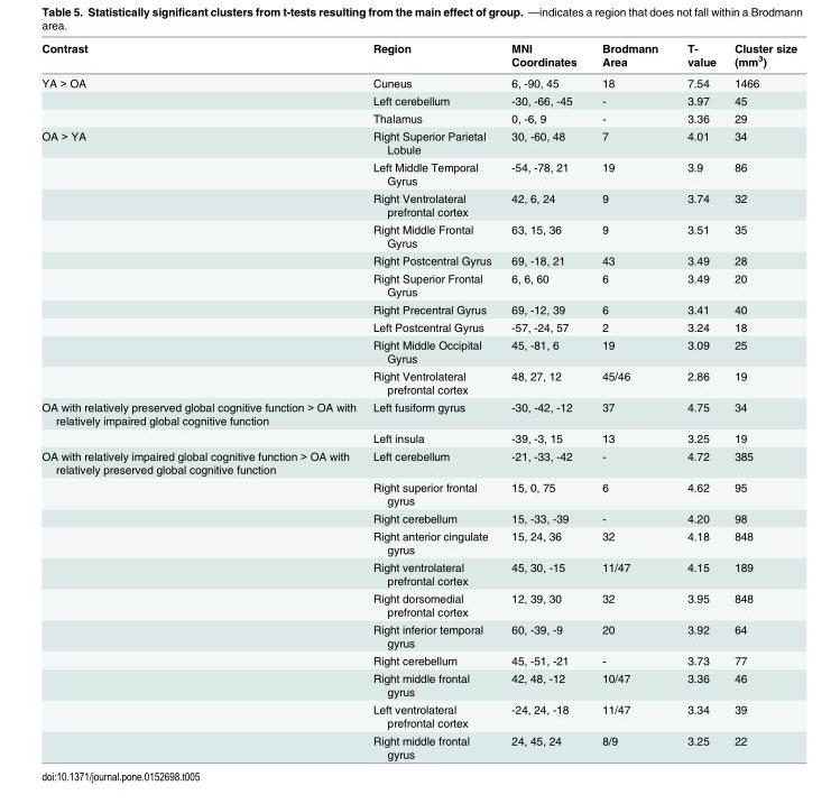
<table><thead><tr><td>Contrast</td><td>Region</td><td>MNI Coordinates</td><td>Brodmann Area</td><td>T- value</td><td>Cluster size (mm<sup>3</sup>)</td></tr></thead><tbody><tr><td rowspan="3">YA &gt; OA</td><td>Cuneus</td><td>6, -90, 45</td><td>18</td><td>7.54</td><td>1466</td></tr><tr><td>Left cerebellum</td><td>-30, -66, -45</td><td>-</td><td>3.97</td><td>45</td></tr><tr><td>Thalamus</td><td>0, -6, 9</td><td>-</td><td>3.36</td><td>29</td></tr><tr><td rowspan="10">OA &gt; YA</td><td>Right Superior Parietal Lobule</td><td>30, -60, 48</td><td>7</td><td>4.01</td><td>34</td></tr><tr><td>Left Middle Temporal Gyrus</td><td>-54, -78, 21</td><td>19</td><td>3.9</td><td>86</td></tr><tr><td>Right Ventrolateral prefrontal cortex</td><td>42, 6, 24</td><td>9</td><td>3.74</td><td>32</td></tr><tr><td>Right Middle Frontal Gyrus</td><td>63, 15, 36</td><td>9</td><td>3.51</td><td>35</td></tr><tr><td>Right Postcentral Gyrus</td><td>69, -18, 21</td><td>43</td><td>3.49</td><td>28</td></tr><tr><td>Right Superior Frontal Gyrus</td><td>6, 6, 60</td><td>6</td><td>3.49</td><td>20</td></tr><tr><td>Right Precentral Gyrus</td><td>69, -12, 39</td><td>6</td><td>3.41</td><td>40</td></tr><tr><td>Left Postcentral Gyrus</td><td>-57, -24, 57</td><td>2</td><td>3.24</td><td>18</td></tr><tr><td>Right Middle Occipital Gyrus</td><td>45, -81, 6</td><td>19</td><td>3.09</td><td>25</td></tr><tr><td>Right Ventrolateral prefrontal cortex</td><td>48, 27, 12</td><td>45/46</td><td>2.86</td><td>19</td></tr><tr><td rowspan="2">OA with relatively preserved global cognitive function &gt; OA with relatively impaired global cognitive function</td><td>Left fusiform gyrus</td><td>-30, -42, -12</td><td>37</td><td>4.75</td><td>34</td></tr><tr><td>Left insula</td><td>-39, -3, 15</td><td>13</td><td>3.25</td><td>19</td></tr><tr><td rowspan="11">OA with relatively impaired global cognitive function &gt; OA with relatively preserved global cognitive function</td><td>Left cerebellum</td><td>-21, -33, -42</td><td>-</td><td>4.72</td><td>385</td></tr><tr><td>Right superior frontal gyrus</td><td>15, 0, 75</td><td>6</td><td>4.62</td><td>95</td></tr><tr><td>Right cerebellum</td><td>15, -33, -39</td><td>-</td><td>4.20</td><td>98</td></tr><tr><td>Right anterior cingulate gyrus</td><td>15, 24, 36</td><td>32</td><td>4.18</td><td>848</td></tr><tr><td>Right ventrolateral prefrontal cortex</td><td>45, 30, -15</td><td>11/47</td><td>4.15</td><td>189</td></tr><tr><td>Right dorsomedial prefrontal cortex</td><td>12, 39, 30</td><td>32</td><td>3.95</td><td>848</td></tr><tr><td>Right inferior temporal gyrus</td><td>60, -39, -9</td><td>20</td><td>3.92</td><td>64</td></tr><tr><td>Right cerebellum</td><td>45, -51, -21</td><td>-</td><td>3.73</td><td>77</td></tr><tr><td>Right middle frontal gyrus</td><td>42, 48, -12</td><td>10/47</td><td>3.36</td><td>46</td></tr><tr><td>Left ventrolateral prefrontal cortex</td><td>-24, 24, -18</td><td>11/47</td><td>3.34</td><td>39</td></tr><tr><td>Right middle frontal gyrus</td><td>24, 45, 24</td><td>8/9</td><td>3.25</td><td>22</td></tr></tbody></table>